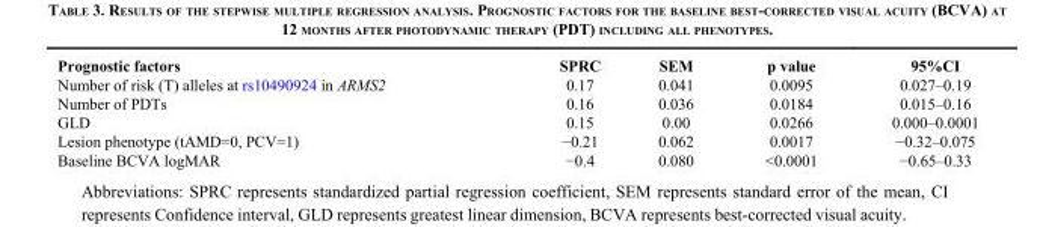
<table><thead><tr><td>Prognostic factors</td><td>SPRC</td><td>SEM</td><td>p value</td><td>95%CI</td></tr></thead><tbody><tr><td>Number of risk (T) alleles at rs10490924 in ARMS2</td><td>0.17</td><td>0.041</td><td>0.0095</td><td>0.027–0.19</td></tr><tr><td>Number of PDTs</td><td>0.16</td><td>0.036</td><td>0.0184</td><td>0.015–0.16</td></tr><tr><td>GLD</td><td>0.15</td><td>0.00</td><td>0.0266</td><td>0.000–0.0001</td></tr><tr><td>Lesion phenotype (tAMD=0, PCV=1)</td><td>−0.21</td><td>0.062</td><td>0.0017</td><td>−0.32–0.075</td></tr><tr><td>Baseline BCVA logMAR</td><td>−0.4</td><td>0.080</td><td>&lt;0.0001</td><td>−0.65–0.33</td></tr></tbody></table>